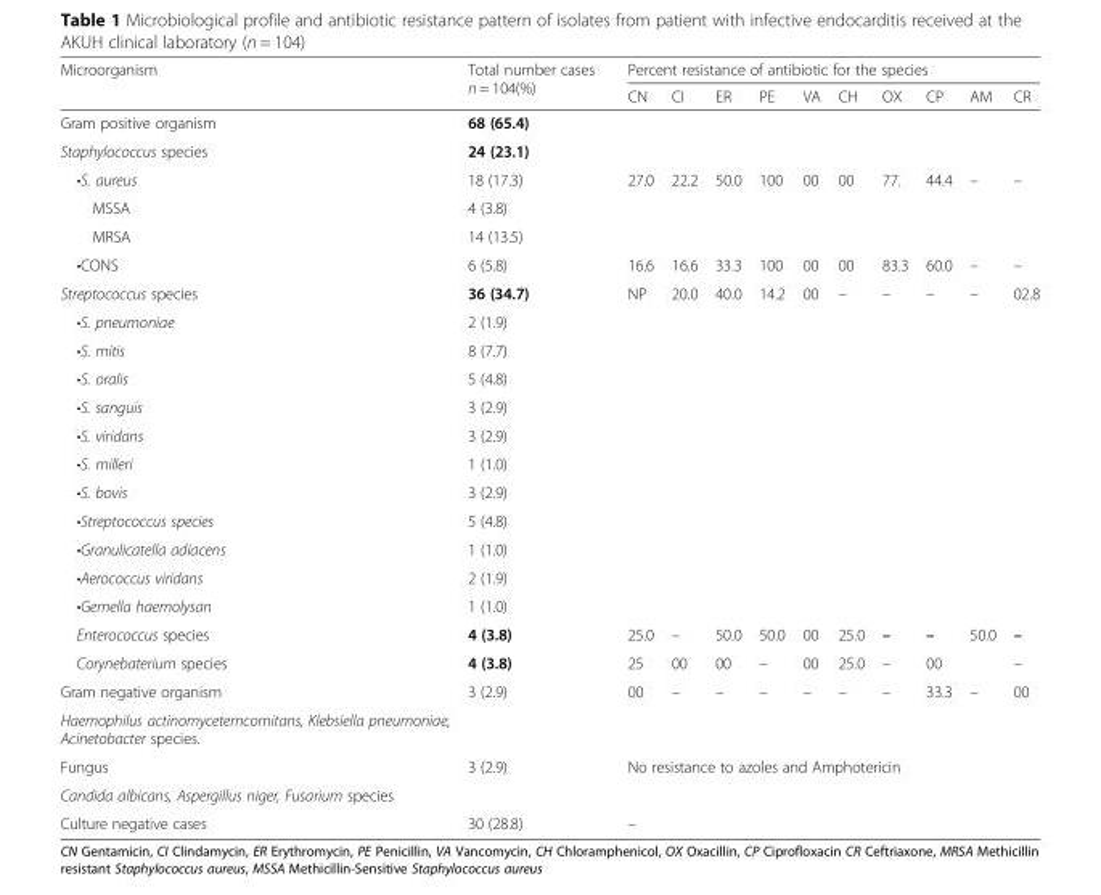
<table><thead><tr><td rowspan="2">Microorganism</td><td rowspan="2">Total number cases n = 104(%)</td><td colspan="10">Percent resistance of antibiotic for the species</td></tr><tr><td>CN</td><td>CI</td><td>ER</td><td>PE</td><td>VA</td><td>CH</td><td>OX</td><td>CP</td><td>AM</td><td>CR</td></tr></thead><tbody><tr><td>Gram positive organism</td><td>68 (65.4)</td><td colspan="10"></td></tr><tr><td>Staphylococcus species</td><td>24 (23.1)</td><td></td><td></td><td></td><td></td><td></td><td></td><td></td><td></td><td></td><td></td></tr><tr><td>•S. aureus</td><td>18 (17.3)</td><td>27.0</td><td>22.2</td><td>50.0</td><td>100</td><td>00</td><td>00</td><td>77.</td><td>44.4</td><td>–</td><td>–</td></tr><tr><td>MSSA</td><td>4 (3.8)</td><td></td><td></td><td></td><td></td><td></td><td></td><td></td><td></td><td></td><td></td></tr><tr><td>MRSA</td><td>14 (13.5)</td><td></td><td></td><td></td><td></td><td></td><td></td><td></td><td></td><td></td><td></td></tr><tr><td>•CONS</td><td>6 (5.8)</td><td>16.6</td><td>16.6</td><td>33.3</td><td>100</td><td>00</td><td>00</td><td>83.3</td><td>60.0</td><td>–</td><td>–</td></tr><tr><td>Streptococcus species</td><td>36 (34.7)</td><td>NP</td><td>20.0</td><td>40.0</td><td>14.2</td><td>00</td><td>–</td><td>–</td><td>–</td><td>–</td><td>02.8</td></tr><tr><td>•S. pneumoniae</td><td>2 (1.9)</td><td></td><td></td><td></td><td></td><td></td><td></td><td></td><td></td><td></td><td></td></tr><tr><td>•S. mitis</td><td>8 (7.7)</td><td></td><td></td><td></td><td></td><td></td><td></td><td></td><td></td><td></td><td></td></tr><tr><td>•S. oralis</td><td>5 (4.8)</td><td></td><td></td><td></td><td></td><td></td><td></td><td></td><td></td><td></td><td></td></tr><tr><td>•S. sanguis</td><td>3 (2.9)</td><td></td><td></td><td></td><td></td><td></td><td></td><td></td><td></td><td></td><td></td></tr><tr><td>•S. viridans</td><td>3 (2.9)</td><td></td><td></td><td></td><td></td><td></td><td></td><td></td><td></td><td></td><td></td></tr><tr><td>•S. milleri</td><td>1 (1.0)</td><td></td><td></td><td></td><td></td><td></td><td></td><td></td><td></td><td></td><td></td></tr><tr><td>•S. bovis</td><td>3 (2.9)</td><td></td><td></td><td></td><td></td><td></td><td></td><td></td><td></td><td></td><td></td></tr><tr><td>•Streptococcus species</td><td>5 (4.8)</td><td></td><td></td><td></td><td></td><td></td><td></td><td></td><td></td><td></td><td></td></tr><tr><td>•Granulicatella adiacens</td><td>1 (1.0)</td><td></td><td></td><td></td><td></td><td></td><td></td><td></td><td></td><td></td><td></td></tr><tr><td>•Aerococcus viridans</td><td>2 (1.9)</td><td></td><td></td><td></td><td></td><td></td><td></td><td></td><td></td><td></td><td></td></tr><tr><td>•Gemella haemolysan</td><td>1 (1.0)</td><td></td><td></td><td></td><td></td><td></td><td></td><td></td><td></td><td></td><td></td></tr><tr><td>Enterococcus species</td><td>4 (3.8)</td><td>25.0</td><td>–</td><td>50.0</td><td>50.0</td><td>00</td><td>25.0</td><td>–</td><td>–</td><td>50.0</td><td>–</td></tr><tr><td>Corynebaterium species</td><td>4 (3.8)</td><td>25</td><td>00</td><td>00</td><td>–</td><td>00</td><td>25.0</td><td>–</td><td>00</td><td></td><td>–</td></tr><tr><td>Gram negative organism</td><td>3 (2.9)</td><td>00</td><td>–</td><td>–</td><td>–</td><td>–</td><td>–</td><td>–</td><td>33.3</td><td>–</td><td>00</td></tr><tr><td colspan="12">Haemophilus actinomycetemcomitans, Klebsiella pneumoniae, Acinetobacter species.</td></tr><tr><td>Fungus</td><td>3 (2.9)</td><td colspan="10">No resistance to azoles and Amphotericin</td></tr><tr><td colspan="12">Candida albicans, Aspergillus niger, Fusarium species</td></tr><tr><td>Culture negative cases</td><td>30 (28.8)</td><td colspan="10">–</td></tr></tbody></table>